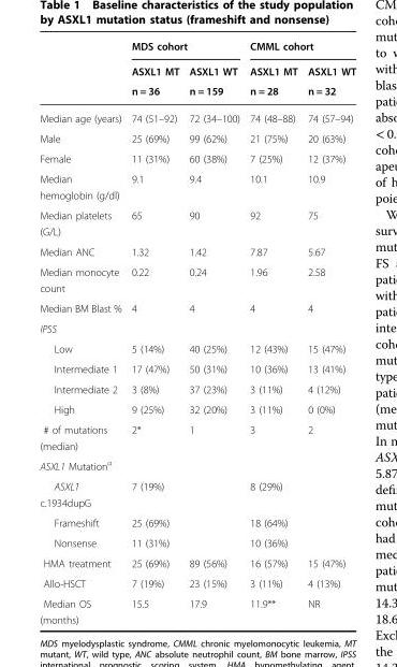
<table><thead><tr><td rowspan="3"></td><td colspan="2">MDS cohort</td><td colspan="2">CMML cohort</td></tr><tr><td rowspan="2">ASXL1 MT n = 36</td><td rowspan="2">ASXL1 WT n = 159</td><td rowspan="2">ASXL1 MT n = 28</td><td rowspan="2">ASXL1 WT n = 32</td></tr><tr></tr></thead><tbody><tr><td>Median age (years)</td><td>74 (51–92)</td><td>72 (34–100)</td><td>74 (48–88)</td><td>74 (57–94)</td></tr><tr><td>Male</td><td>25 (69%)</td><td>99 (62%)</td><td>21 (75%)</td><td>20 (63%)</td></tr><tr><td>Female</td><td>11 (31%)</td><td>60 (38%)</td><td>7 (25%)</td><td>12 (37%)</td></tr><tr><td>Median hemoglobin (g/dl)</td><td>9.1</td><td>9.4</td><td>10.1</td><td>10.9</td></tr><tr><td>Median platelets (G/L)</td><td>65</td><td>90</td><td>92</td><td>75</td></tr><tr><td>Median ANC</td><td>1.32</td><td>1.42</td><td>7.87</td><td>5.67</td></tr><tr><td>Median monocyte count</td><td>0.22</td><td>0.24</td><td>1.96</td><td>2.58</td></tr><tr><td>Median BM Blast %</td><td>4</td><td>4</td><td>4</td><td>4</td></tr><tr><td colspan="5">IPSS</td></tr><tr><td>Low</td><td>5 (14%)</td><td>40 (25%)</td><td>12 (43%)</td><td>15 (47%)</td></tr><tr><td>Intermediate 1</td><td>17 (47%)</td><td>50 (31%)</td><td>10 (36%)</td><td>13 (41%)</td></tr><tr><td>Intermediate 2</td><td>3 (8%)</td><td>37 (23%)</td><td>3 (11%)</td><td>4 (12%)</td></tr><tr><td>High</td><td>9 (25%)</td><td>32 (20%)</td><td>3 (11%)</td><td>0 (0%)</td></tr><tr><td># of mutations (median)</td><td>2*</td><td>1</td><td>3</td><td>2</td></tr><tr><td colspan="5">ASXL1 Mutation<sup>a</sup></td></tr><tr><td>ASXL1 c.1934dupG</td><td>7 (19%)</td><td></td><td>8 (29%)</td><td></td></tr><tr><td>Frameshift</td><td>25 (69%)</td><td></td><td>18 (64%)</td><td></td></tr><tr><td>Nonsense</td><td>11 (31%)</td><td></td><td>10 (36%)</td><td></td></tr><tr><td>HMA treatment</td><td>25 (69%)</td><td>89 (56%)</td><td>16 (57%)</td><td>15 (47%)</td></tr><tr><td>Allo-HSCT</td><td>7 (19%)</td><td>23 (15%)</td><td>3 (11%)</td><td>4 (13%)</td></tr><tr><td>Median OS (months)</td><td>15.5</td><td>17.9</td><td>11.9**</td><td>NR</td></tr></tbody></table>